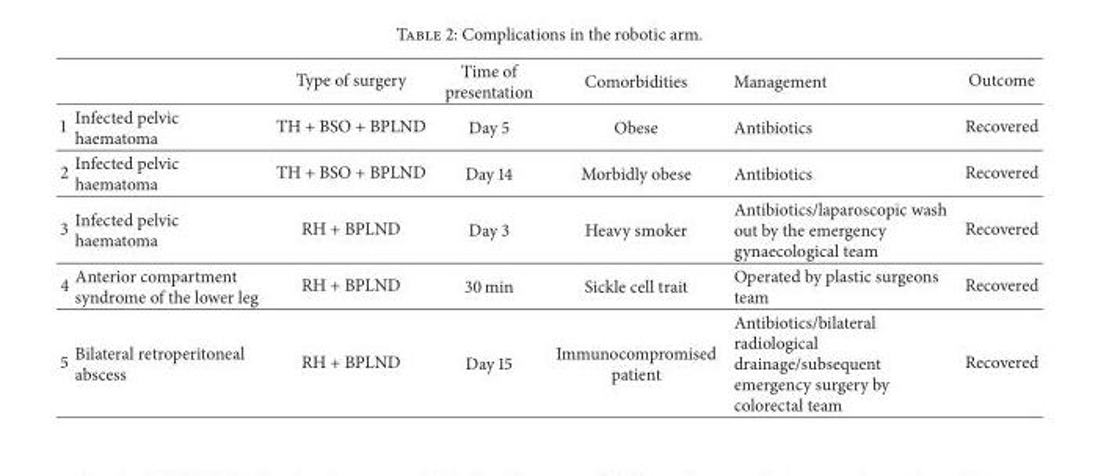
<table><thead><tr><td></td><td></td><td>Type of surgery</td><td>Time of presentation</td><td>Comorbidities</td><td>Management</td><td>Outcome</td></tr></thead><tbody><tr><td>1</td><td>Infected pelvic haematoma</td><td>TH + BSO + BPLND</td><td>Day 5</td><td>Obese</td><td>Antibiotics</td><td>Recovered</td></tr><tr><td>2</td><td>Infected pelvic haematoma</td><td>TH + BSO + BPLND</td><td>Day 14</td><td>Morbidly obese</td><td>Antibiotics</td><td>Recovered</td></tr><tr><td>3</td><td>Infected pelvic haematoma</td><td>RH + BPLND</td><td>Day 3</td><td>Heavy smoker</td><td>Antibiotics/laparoscopic wash out by the emergency gynaecological team</td><td>Recovered</td></tr><tr><td>4</td><td>Anterior compartment syndrome of the lower leg</td><td>RH + BPLND</td><td>30 min</td><td>Sickle cell trait</td><td>Operated by plastic surgeons team</td><td>Recovered</td></tr><tr><td>5</td><td>Bilateral retroperitoneal abscess</td><td>RH + BPLND</td><td>Day 15</td><td>Immunocompromised patient</td><td>Antibiotics/bilateral radiological drainage/subsequent emergency surgery by colorectal team</td><td>Recovered</td></tr></tbody></table>